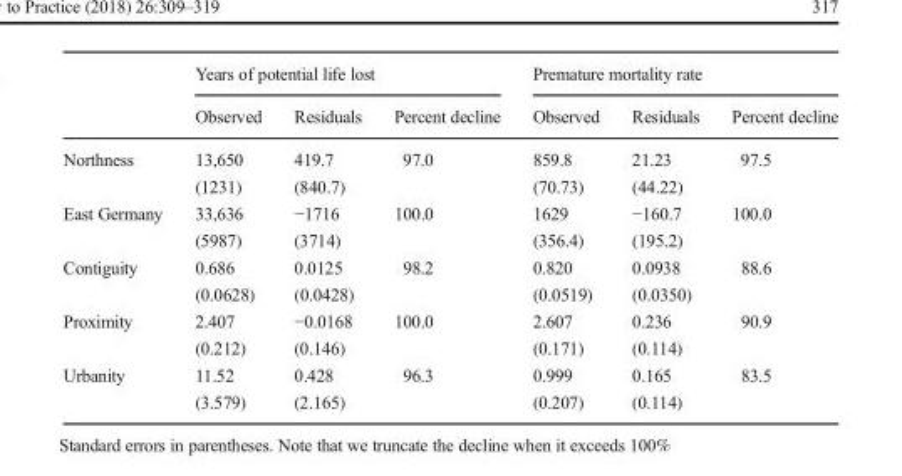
<table><thead><tr><td rowspan="2"></td><td colspan="3">Years of potential life lost</td><td colspan="3">Premature mortality rate</td></tr><tr><td>Observed</td><td>Residuals</td><td>Percent decline</td><td>Observed</td><td>Residuals</td><td>Percent decline</td></tr></thead><tbody><tr><td rowspan="2">Northness</td><td>13,650</td><td>419.7</td><td>97.0</td><td>859.8</td><td>21.23</td><td>97.5</td></tr><tr><td>(1231)</td><td>(840.7)</td><td></td><td>(70.73)</td><td>(44.22)</td><td></td></tr><tr><td rowspan="2">East Germany</td><td>33,636</td><td>−1716</td><td>100.0</td><td>1629</td><td>−160.7</td><td>100.0</td></tr><tr><td>(5987)</td><td>(3714)</td><td></td><td>(356.4)</td><td>(195.2)</td><td></td></tr><tr><td rowspan="2">Contiguity</td><td>0.686</td><td>0.0125</td><td>98.2</td><td>0.820</td><td>0.0938</td><td>88.6</td></tr><tr><td>(0.0628)</td><td>(0.0428)</td><td></td><td>(0.0519)</td><td>(0.0350)</td><td></td></tr><tr><td rowspan="2">Proximity</td><td>2.407</td><td>−0.0168</td><td>100.0</td><td>2.607</td><td>0.236</td><td>90.9</td></tr><tr><td>(0.212)</td><td>(0.146)</td><td></td><td>(0.171)</td><td>(0.114)</td><td></td></tr><tr><td rowspan="2">Urbanity</td><td>11.52</td><td>0.428</td><td>96.3</td><td>0.999</td><td>0.165</td><td>83.5</td></tr><tr><td>(3.579)</td><td>(2.165)</td><td></td><td>(0.207)</td><td>(0.114)</td><td></td></tr></tbody></table>